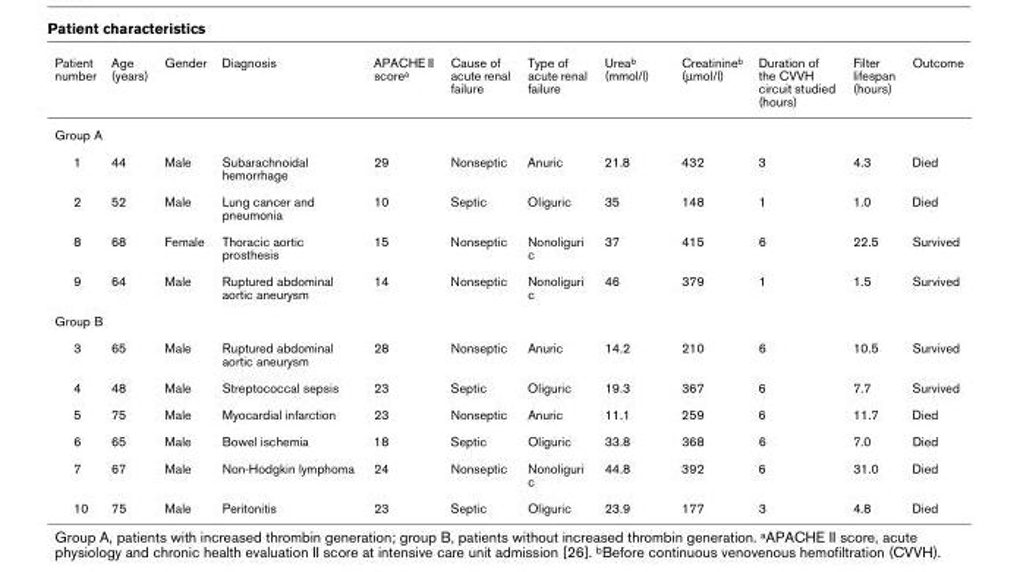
<table><thead><tr><td>Patient number</td><td>Age (years)</td><td>Gender</td><td>Diagnosis</td><td>APACHE II scorea</td><td>Cause of acute renal failure</td><td>Type of acute renal failure</td><td>Ureab (mmol/l)</td><td>Creatinineb (μmol/l)</td><td>Duration of the CVVH circuit studied (hours)</td><td>Filter lifespan (hours)</td><td>Outcome</td></tr></thead><tbody><tr><td colspan="12">Group A</td></tr><tr><td>1</td><td>44</td><td>Male</td><td>Subarachnoidal hemorrhage</td><td>29</td><td>Nonseptic</td><td>Anuric</td><td>21.8</td><td>432</td><td>3</td><td>4.3</td><td>Died</td></tr><tr><td>2</td><td>52</td><td>Male</td><td>Lung cancer and pneumonia</td><td>10</td><td>Septic</td><td>Oliguric</td><td>35</td><td>148</td><td>1</td><td>1.0</td><td>Died</td></tr><tr><td>8</td><td>68</td><td>Female</td><td>Thoracic aortic prosthesis</td><td>15</td><td>Nonseptic</td><td>Nonoliguri c</td><td>37</td><td>415</td><td>6</td><td>22.5</td><td>Survived</td></tr><tr><td>9</td><td>64</td><td>Male</td><td>Ruptured abdominal aortic aneurysm</td><td>14</td><td>Nonseptic</td><td>Nonoliguri c</td><td>46</td><td>379</td><td>1</td><td>1.5</td><td>Survived</td></tr><tr><td colspan="12">Group B</td></tr><tr><td>3</td><td>65</td><td>Male</td><td>Ruptured abdominal aortic aneurysm</td><td>28</td><td>Nonseptic</td><td>Anuric</td><td>14.2</td><td>210</td><td>6</td><td>10.5</td><td>Survived</td></tr><tr><td>4</td><td>48</td><td>Male</td><td>Streptococcal sepsis</td><td>23</td><td>Septic</td><td>Oliguric</td><td>19.3</td><td>367</td><td>6</td><td>7.7</td><td>Survived</td></tr><tr><td>5</td><td>75</td><td>Male</td><td>Myocardial infarction</td><td>23</td><td>Nonseptic</td><td>Anuric</td><td>11.1</td><td>259</td><td>6</td><td>11.7</td><td>Died</td></tr><tr><td>6</td><td>65</td><td>Male</td><td>Bowel ischemia</td><td>18</td><td>Septic</td><td>Oliguric</td><td>33.8</td><td>368</td><td>6</td><td>7.0</td><td>Died</td></tr><tr><td>7</td><td>67</td><td>Male</td><td>Non-Hodgkin lymphoma</td><td>24</td><td>Nonseptic</td><td>Nonoliguri c</td><td>44.8</td><td>392</td><td>6</td><td>31.0</td><td>Died</td></tr><tr><td>10</td><td>75</td><td>Male</td><td>Peritonitis</td><td>23</td><td>Septic</td><td>Oliguric</td><td>23.9</td><td>177</td><td>3</td><td>4.8</td><td>Died</td></tr></tbody></table>